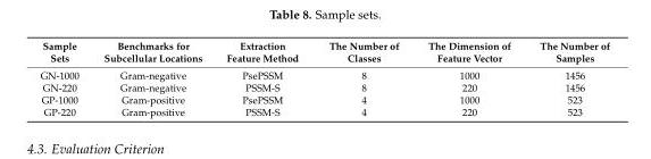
<table><thead><tr><td>Sample Sets</td><td>Benchmarks for Subcellular Locations</td><td>Extraction Feature Method</td><td>The Number of Classes</td><td>The Dimension of Feature Vector</td><td>The Number of Samples</td></tr></thead><tbody><tr><td>GN-1000</td><td>Gram-negative</td><td>PsePSSM</td><td>8</td><td>1000</td><td>1456</td></tr><tr><td>GN-220</td><td>Gram-negative</td><td>PSSM-S</td><td>8</td><td>220</td><td>1456</td></tr><tr><td>GP-1000</td><td>Gram-positive</td><td>PsePSSM</td><td>4</td><td>1000</td><td>523</td></tr><tr><td>GP-220</td><td>Gram-positive</td><td>PSSM-S</td><td>4</td><td>220</td><td>523</td></tr></tbody></table>